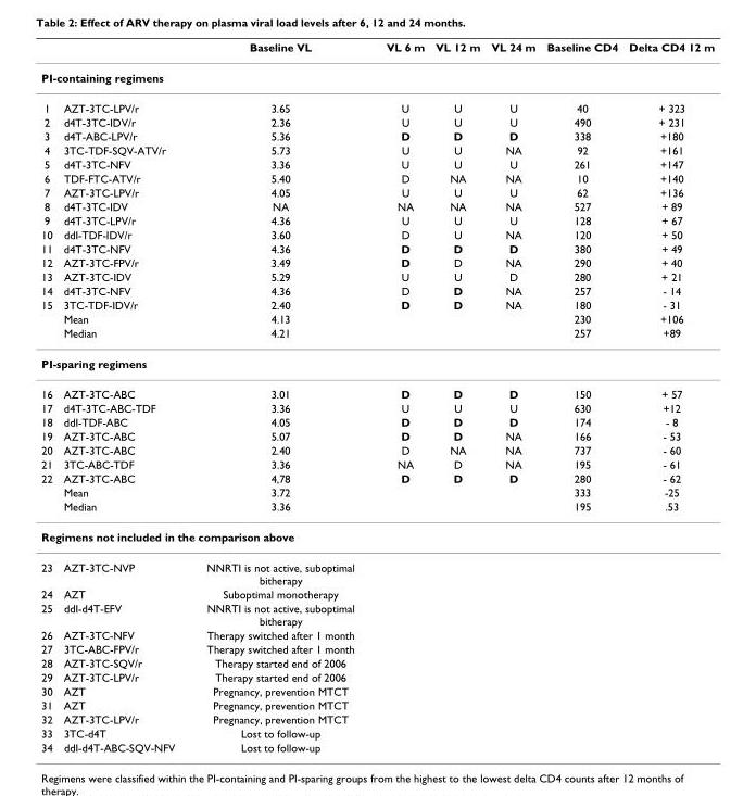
<table><thead><tr><td></td><td></td><td>Baseline VL</td><td>VL 6 m</td><td>VL 12 m</td><td>VL 24 m</td><td>Baseline CD4</td><td>Delta CD4 12 m</td></tr></thead><tbody><tr><td colspan="8">PI-containing regimens</td></tr><tr><td>1</td><td>AZT-3TC-LPV/r</td><td>3.65</td><td>U</td><td>U</td><td>U</td><td>40</td><td>+ 323</td></tr><tr><td>2</td><td>d4T-3TC-IDV/r</td><td>2.36</td><td>U</td><td>U</td><td>U</td><td>490</td><td>+ 231</td></tr><tr><td>3</td><td>d4T-ABC-LPV/r</td><td>5.36</td><td>D</td><td>D</td><td>D</td><td>338</td><td>+180</td></tr><tr><td>4</td><td>3TC-TDF-SQV-ATV/r</td><td>5.73</td><td>U</td><td>U</td><td>NA</td><td>92</td><td>+161</td></tr><tr><td>5</td><td>d4T-3TC-NFV</td><td>3.36</td><td>U</td><td>U</td><td>U</td><td>261</td><td>+147</td></tr><tr><td>6</td><td>TDF-FTC-ATV/r</td><td>5.40</td><td>D</td><td>NA</td><td>NA</td><td>10</td><td>+140</td></tr><tr><td>7</td><td>AZT-3TC-LPV/r</td><td>4.05</td><td>U</td><td>U</td><td>U</td><td>62</td><td>+136</td></tr><tr><td>8</td><td>d4T-3TC-IDV</td><td>NA</td><td>NA</td><td>NA</td><td>NA</td><td>527</td><td>+ 89</td></tr><tr><td>9</td><td>d4T-3TC-LPV/r</td><td>4.36</td><td>U</td><td>U</td><td>U</td><td>128</td><td>+ 67</td></tr><tr><td>10</td><td>ddI-TDF-IDV/r</td><td>3.60</td><td>D</td><td>U</td><td>NA</td><td>120</td><td>+ 50</td></tr><tr><td>11</td><td>d4T-3TC-NFV</td><td>4.36</td><td>D</td><td>D</td><td>D</td><td>380</td><td>+ 49</td></tr><tr><td>12</td><td>AZT-3TC-FPV/r</td><td>3.49</td><td>D</td><td>D</td><td>NA</td><td>290</td><td>+ 40</td></tr><tr><td>13</td><td>AZT-3TC-IDV</td><td>5.29</td><td>U</td><td>U</td><td>D</td><td>280</td><td>+ 21</td></tr><tr><td>14</td><td>d4T-3TC-NFV</td><td>4.36</td><td>D</td><td>D</td><td>NA</td><td>257</td><td>- 14</td></tr><tr><td rowspan="3">15</td><td>3TC-TDF-IDV/r</td><td>2.40</td><td>D</td><td>D</td><td>NA</td><td>180</td><td>- 31</td></tr><tr><td>Mean</td><td>4.13</td><td></td><td></td><td></td><td>230</td><td>+106</td></tr><tr><td>Median</td><td>4.21</td><td></td><td></td><td></td><td>257</td><td>+89</td></tr><tr><td colspan="8">PI-sparing regimens</td></tr><tr><td>16</td><td>AZT-3TC-ABC</td><td>3.01</td><td>D</td><td>D</td><td>D</td><td>150</td><td>+ 57</td></tr><tr><td>17</td><td>d4T-3TC-ABC-TDF</td><td>3.36</td><td>U</td><td>U</td><td>U</td><td>630</td><td>+12</td></tr><tr><td>18</td><td>ddI-TDF-ABC</td><td>4.05</td><td>D</td><td>D</td><td>D</td><td>174</td><td>- 8</td></tr><tr><td>19</td><td>AZT-3TC-ABC</td><td>5.07</td><td>D</td><td>D</td><td>NA</td><td>166</td><td>- 53</td></tr><tr><td>20</td><td>AZT-3TC-ABC</td><td>2.40</td><td>D</td><td>NA</td><td>NA</td><td>737</td><td>- 60</td></tr><tr><td>21</td><td>3TC-ABC-TDF</td><td>3.36</td><td>NA</td><td>D</td><td>NA</td><td>195</td><td>- 61</td></tr><tr><td rowspan="3">22</td><td>AZT-3TC-ABC</td><td>4,78</td><td>D</td><td>D</td><td>D</td><td>280</td><td>- 62</td></tr><tr><td>Mean</td><td>3.72</td><td></td><td></td><td></td><td>333</td><td>-25</td></tr><tr><td>Median</td><td>3.36</td><td></td><td></td><td></td><td>195</td><td>.53</td></tr><tr><td colspan="8">Regimens not included in the comparison above</td></tr><tr><td>23</td><td>AZT-3TC-NVP</td><td>NNRTI is not active, suboptimal bitherapy</td><td></td><td></td><td></td><td></td><td></td></tr><tr><td>24</td><td>AZT</td><td>Suboptimal monotherapy</td><td></td><td></td><td></td><td></td><td></td></tr><tr><td>25</td><td>ddI-d4T-EFV</td><td>NNRTI is not active, suboptimal bitherapy</td><td></td><td></td><td></td><td></td><td></td></tr><tr><td>26</td><td>AZT-3TC-NFV</td><td>Therapy switched after 1 month</td><td></td><td></td><td></td><td></td><td></td></tr><tr><td>27</td><td>3TC-ABC-FPV/r</td><td>Therapy switched after 1 month</td><td></td><td></td><td></td><td></td><td></td></tr><tr><td>28</td><td>AZT-3TC-SQV/r</td><td>Therapy started end of 2006</td><td></td><td></td><td></td><td></td><td></td></tr><tr><td>29</td><td>AZT-3TC-LPV/r</td><td>Therapy started end of 2006</td><td></td><td></td><td></td><td></td><td></td></tr><tr><td>30</td><td>AZT</td><td>Pregnancy, prevention MTCT</td><td></td><td></td><td></td><td></td><td></td></tr><tr><td>31</td><td>AZT</td><td>Pregnancy, prevention MTCT</td><td></td><td></td><td></td><td></td><td></td></tr><tr><td>32</td><td>AZT-3TC-LPV/r</td><td>Pregnancy, prevention MTCT</td><td></td><td></td><td></td><td></td><td></td></tr><tr><td>33</td><td>3TC-d4T</td><td>Lost to follow-up</td><td></td><td></td><td></td><td></td><td></td></tr><tr><td>34</td><td>ddI-d4T-ABC-SQV-NFV</td><td>Lost to follow-up</td><td></td><td></td><td></td><td></td><td></td></tr></tbody></table>